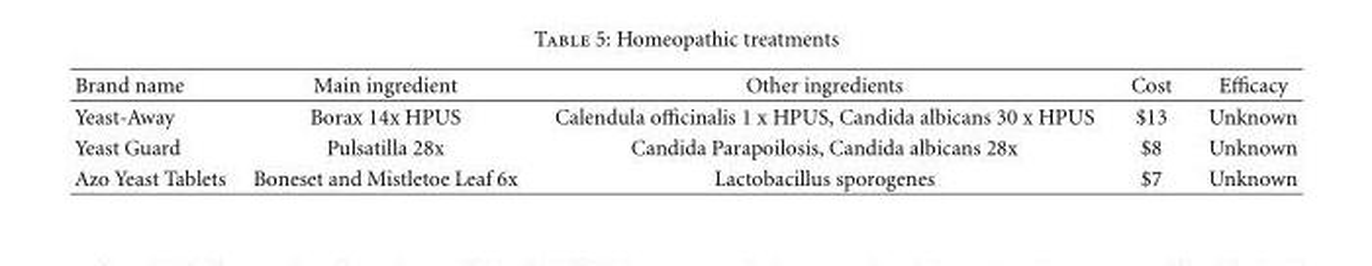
<table><tbody><tr><td>Brand name</td><td>Main ingredient</td><td>Other ingredients</td><td>Cost</td><td>Efficacy</td></tr><tr><td>Yeast-Away</td><td>Borax 14x HPUS</td><td>Calendula officinalis 1 x HPUS, Candida albicans 30 x HPUS</td><td>$13</td><td>Unknown</td></tr><tr><td>Yeast Guard</td><td>Pulsatilla 28x</td><td>Candida Parapoilosis, Candida albicans 28x</td><td>$8</td><td>Unknown</td></tr><tr><td>Azo Yeast Tablets</td><td>Boneset and Mistletoe Leaf 6x</td><td>Lactobacillus sporogenes</td><td>$7</td><td>Unknown</td></tr></tbody></table>